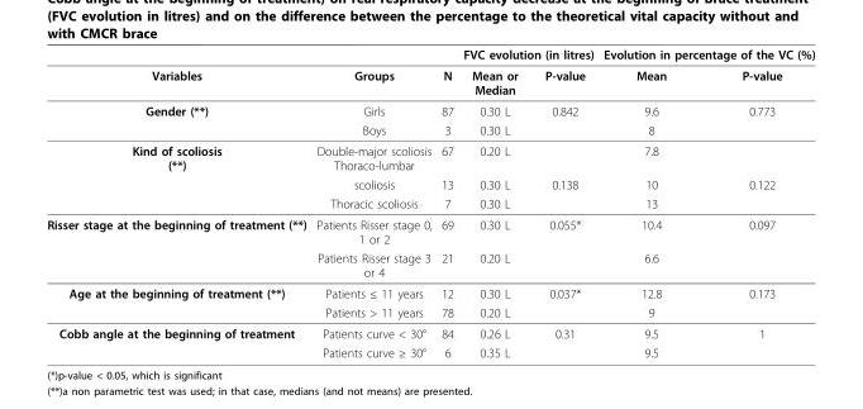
<table><thead><tr><td rowspan="2">Variables</td><td rowspan="2">Groups</td><td rowspan="2">N</td><td colspan="2">FVC evolution (in litres)</td><td colspan="2">Evolution in percentage of the VC (%)</td></tr><tr><td>Mean or Median</td><td>P-value</td><td>Mean</td><td>P-value</td></tr></thead><tbody><tr><td rowspan="2">Gender (**)</td><td>Girls</td><td>87</td><td>0.30 L</td><td>0.842</td><td>9.6</td><td>0.773</td></tr><tr><td>Boys</td><td>3</td><td>0.30 L</td><td></td><td>8</td><td></td></tr><tr><td rowspan="3">Kind of scoliosis (**)</td><td>Double-major scoliosis Thoraco-lumbar</td><td>67</td><td>0.20 L</td><td></td><td>7.8</td><td></td></tr><tr><td>scoliosis</td><td>13</td><td>0.30 L</td><td>0.138</td><td>10</td><td>0.122</td></tr><tr><td>Thoracic scoliosis</td><td>7</td><td>0.30 L</td><td></td><td>13</td><td></td></tr><tr><td rowspan="2">Risser stage at the beginning of treatment (**)</td><td>Patients Risser stage 0, 1 or 2</td><td>69</td><td>0.30 L</td><td>0.055*</td><td>10.4</td><td>0.097</td></tr><tr><td>Patients Risser stage 3 or 4</td><td>21</td><td>0.20 L</td><td></td><td>6.6</td><td></td></tr><tr><td rowspan="2">Age at the beginning of treatment (**)</td><td>Patients ≤ 11 years</td><td>12</td><td>0.30 L</td><td>0.037*</td><td>12.8</td><td>0.173</td></tr><tr><td>Patients &gt; 11 years</td><td>78</td><td>0.20 L</td><td></td><td>9</td><td></td></tr><tr><td rowspan="2">Cobb angle at the beginning of treatment</td><td>Patients curve &lt; 30°</td><td>84</td><td>0.26 L</td><td>0.31</td><td>9.5</td><td>1</td></tr><tr><td>Patients curve ≥ 30°</td><td>6</td><td>0.35 L</td><td></td><td>9.5</td><td></td></tr></tbody></table>